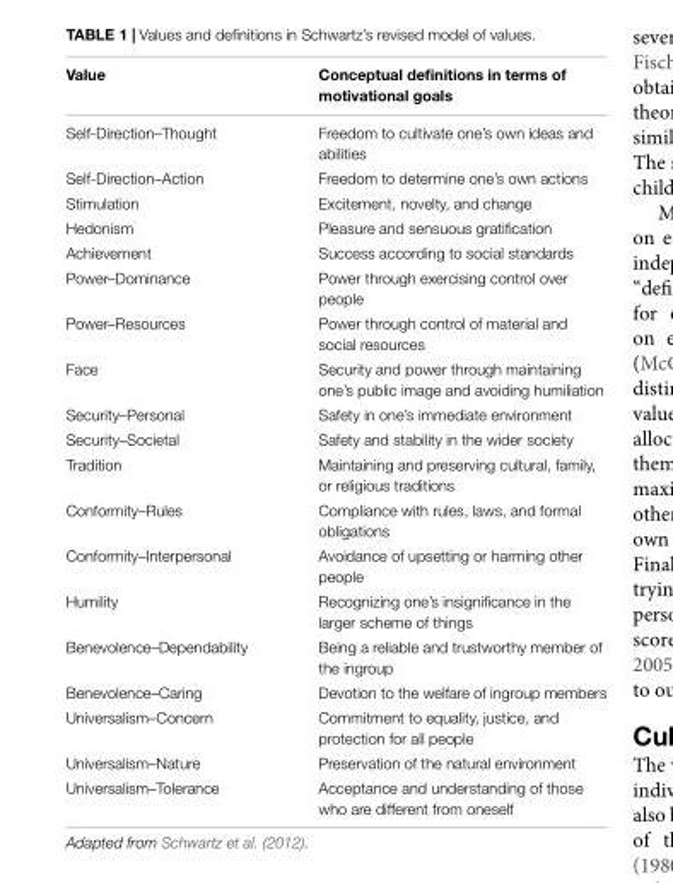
<table><thead><tr><td>Value</td><td>Conceptual definitions in terms of motivational goals</td></tr></thead><tbody><tr><td>Self-Direction–Thought</td><td>Freedom to cultivate one’s own ideas and abilities</td></tr><tr><td>Self-Direction–Action</td><td>Freedom to determine one’s own actions</td></tr><tr><td>Stimulation</td><td>Excitement, novelty, and change</td></tr><tr><td>Hedonism</td><td>Pleasure and sensuous gratification</td></tr><tr><td>Achievement</td><td>Success according to social standards</td></tr><tr><td>Power–Dominance</td><td>Power through exercising control over people</td></tr><tr><td>Power–Resources</td><td>Power through control of material and social resources</td></tr><tr><td>Face</td><td>Security and power through maintaining one’s public image and avoiding humiliation</td></tr><tr><td>Security–Personal</td><td>Safety in one’s immediate environment</td></tr><tr><td>Security–Societal</td><td>Safety and stability in the wider society</td></tr><tr><td>Tradition</td><td>Maintaining and preserving cultural, family, or religious traditions</td></tr><tr><td>Conformity–Rules</td><td>Compliance with rules, laws, and formal obligations</td></tr><tr><td>Conformity–Interpersonal</td><td>Avoidance of upsetting or harming other people</td></tr><tr><td>Humility</td><td>Recognizing one’s insignificance in the larger scheme of things</td></tr><tr><td>Benevolence–Dependability</td><td>Being a reliable and trustworthy member of the ingroup</td></tr><tr><td>Benevolence–Caring</td><td>Devotion to the welfare of ingroup members</td></tr><tr><td>Universalism–Concern</td><td>Commitment to equality, justice, and protection for all people</td></tr><tr><td>Universalism–Nature</td><td>Preservation of the natural environment</td></tr><tr><td>Universalism–Tolerance</td><td>Acceptance and understanding of those who are different from oneself</td></tr></tbody></table>